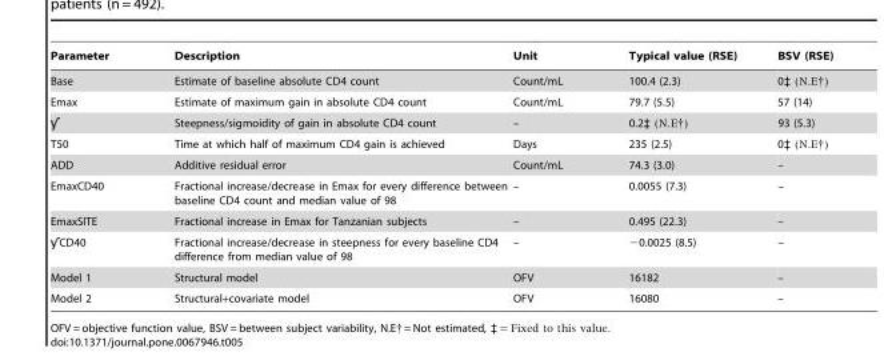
<table><thead><tr><td>Parameter</td><td>Description</td><td>Unit</td><td>Typical value (RSE)</td><td>BSV (RSE)</td></tr></thead><tbody><tr><td>Base</td><td>Estimate of baseline absolute CD4 count</td><td>Count/mL</td><td>100.4 (2.3)</td><td>0‡ (N.E†)</td></tr><tr><td rowspan="2">Emax</td><td>Estimate of maximum gain in absolute CD4 count</td><td>Count/mL</td><td>79.7 (5.5)</td><td>57 (14)</td></tr><tr><td>Steepness/sigmoidity of gain in absolute CD4 count</td><td>–</td><td>0.2‡ (N.E†)</td><td>93 (5.3)</td></tr><tr><td>T50</td><td>Time at which half of maximum CD4 gain is achieved</td><td>Days</td><td>235 (2.5)</td><td>0‡ (N.E†)</td></tr><tr><td>ADD</td><td>Additive residual error</td><td>Count/mL</td><td>74.3 (3.0)</td><td>–</td></tr><tr><td>EmaxCD40</td><td>Fractional increase/decrease in Emax for every difference between baseline CD4 count and median value of 98</td><td>–</td><td>0.0055 (7.3)</td><td>–</td></tr><tr><td>EmaxSITE</td><td>Fractional increase in Emax for Tanzanian subjects</td><td>–</td><td>0.495 (22.3)</td><td>–</td></tr><tr><td>CD40</td><td>Fractional increase/decrease in steepness for every baseline CD4 difference from median value of 98</td><td>–</td><td>−0.0025 (8.5)</td><td>–</td></tr><tr><td>Model 1</td><td>Structural model</td><td>OFV</td><td>16182</td><td>–</td></tr><tr><td>Model 2</td><td>Structural+covariate model</td><td>OFV</td><td>16080</td><td>–</td></tr></tbody></table>